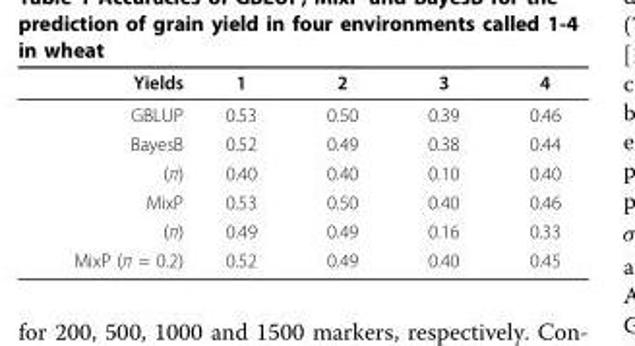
<table><thead><tr><td>Yields</td><td>1</td><td>2</td><td>3</td><td>4</td></tr></thead><tbody><tr><td>GBLUP</td><td>0.53</td><td>0.50</td><td>0.39</td><td>0.46</td></tr><tr><td>BayesB</td><td>0.52</td><td>0.49</td><td>0.38</td><td>0.44</td></tr><tr><td>(π)</td><td>0.40</td><td>0.40</td><td>0.10</td><td>0.40</td></tr><tr><td>MixP</td><td>0.53</td><td>0.50</td><td>0.40</td><td>0.46</td></tr><tr><td>(π)</td><td>0.49</td><td>0.49</td><td>0.16</td><td>0.33</td></tr><tr><td>MixP (π = 0.2)</td><td>0.52</td><td>0.49</td><td>0.40</td><td>0.45</td></tr></tbody></table>